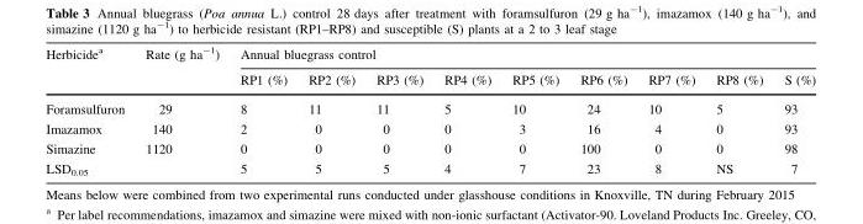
<table><thead><tr><td rowspan="2">Herbicide<sup>a</sup></td><td rowspan="2">Rate (g ha<sup>-1</sup>)</td><td colspan="9">Annual bluegrass control</td></tr><tr><td>RP1 (%)</td><td>RP2 (%)</td><td>RP3 (%)</td><td>RP4 (%)</td><td>RP5 (%)</td><td>RP6 (%)</td><td>RP7 (%)</td><td>RP8 (%)</td><td>S (%)</td></tr></thead><tbody><tr><td>Foramsulfuron</td><td>29</td><td>8</td><td>11</td><td>11</td><td>5</td><td>10</td><td>24</td><td>10</td><td>5</td><td>93</td></tr><tr><td>Imazamox</td><td>140</td><td>2</td><td>0</td><td>0</td><td>0</td><td>3</td><td>16</td><td>4</td><td>0</td><td>93</td></tr><tr><td>Simazine</td><td>1120</td><td>0</td><td>0</td><td>0</td><td>0</td><td>0</td><td>100</td><td>0</td><td>0</td><td>98</td></tr><tr><td colspan="2">LSD<sub>0.05</sub></td><td>5</td><td>5</td><td>5</td><td>4</td><td>7</td><td>23</td><td>8</td><td>NS</td><td>7</td></tr></tbody></table>